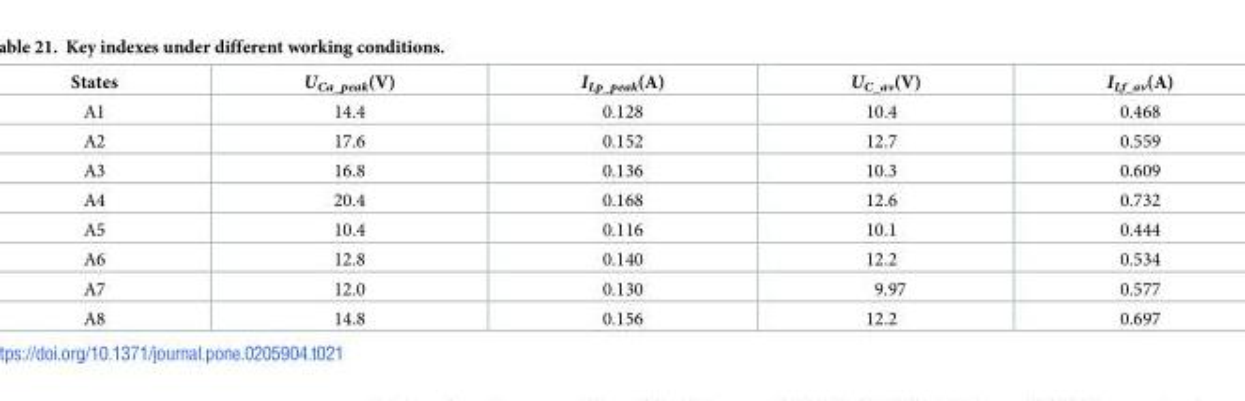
<table><thead><tr><td>States</td><td>U<sub>Ca_peak</sub>(V)</td><td>I<sub>Lp_peak</sub>(A)</td><td>U<sub>C_av</sub>(V)</td><td>I<sub>Lf_av</sub>(A)</td></tr></thead><tbody><tr><td>A1</td><td>14.4</td><td>0.128</td><td>10.4</td><td>0.468</td></tr><tr><td>A2</td><td>17.6</td><td>0.152</td><td>12.7</td><td>0.559</td></tr><tr><td>A3</td><td>16.8</td><td>0.136</td><td>10.3</td><td>0.609</td></tr><tr><td>A4</td><td>20.4</td><td>0.168</td><td>12.6</td><td>0.732</td></tr><tr><td>A5</td><td>10.4</td><td>0.116</td><td>10.1</td><td>0.444</td></tr><tr><td>A6</td><td>12.8</td><td>0.140</td><td>12.2</td><td>0.534</td></tr><tr><td>A7</td><td>12.0</td><td>0.130</td><td>9.97</td><td>0.577</td></tr><tr><td>A8</td><td>14.8</td><td>0.156</td><td>12.2</td><td>0.697</td></tr></tbody></table>